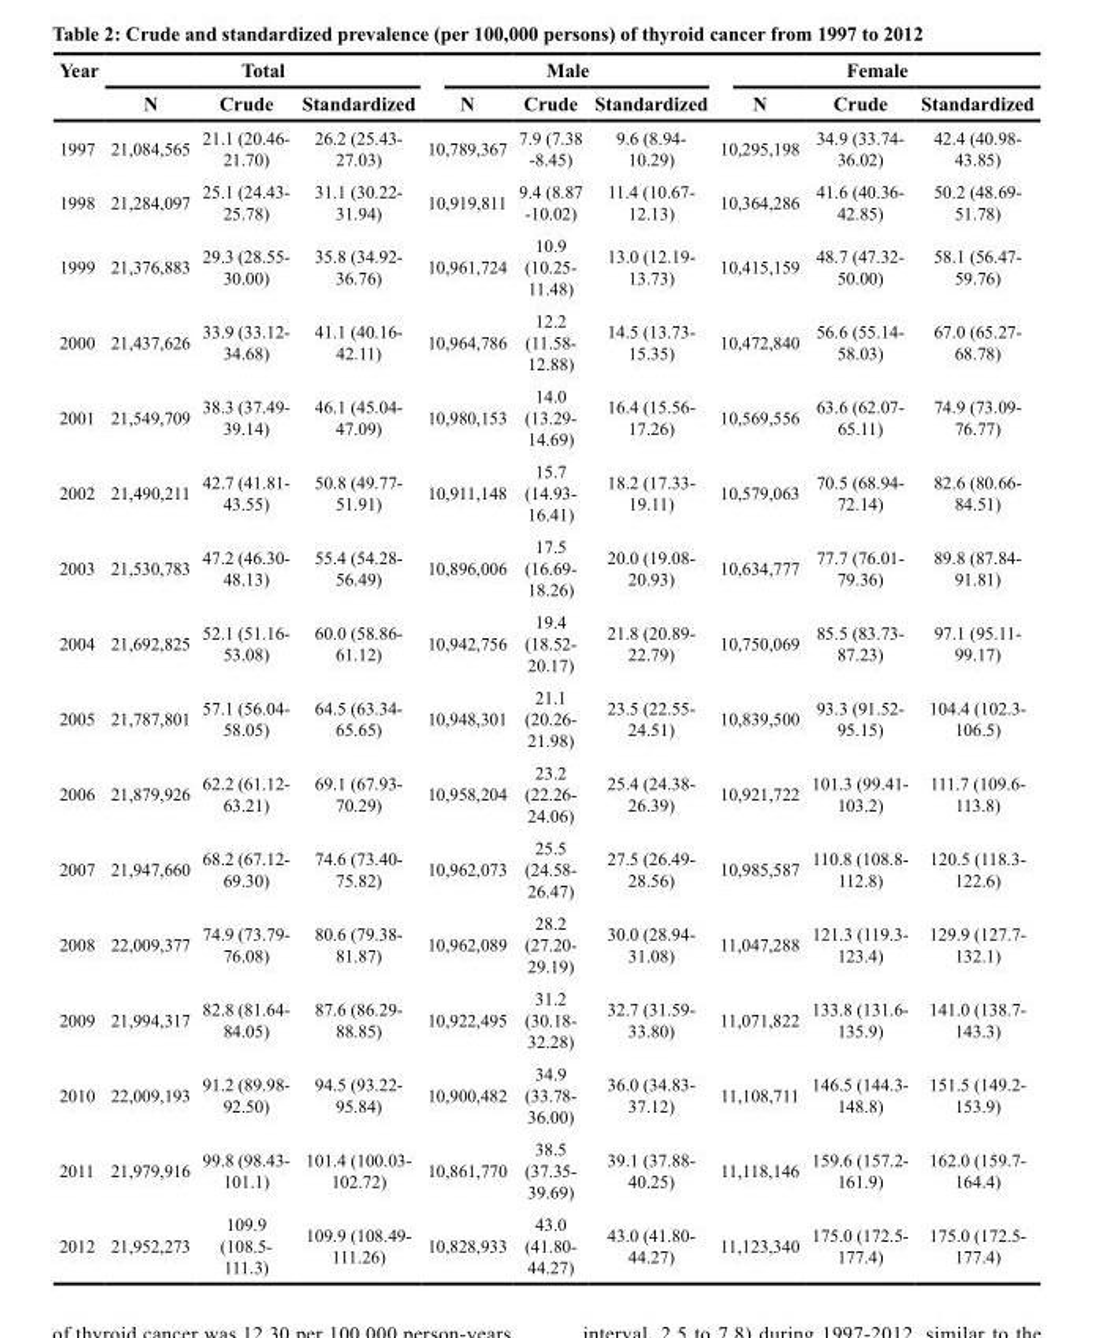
<table><thead><tr><td rowspan="2">Year</td><td colspan="3">Total</td><td colspan="3">Male</td><td colspan="3">Female</td></tr><tr><td>N</td><td>Crude</td><td>Standardized</td><td>N</td><td>Crude</td><td>Standardized</td><td>N</td><td>Crude</td><td>Standardized</td></tr></thead><tbody><tr><td>1997</td><td>21,084,565</td><td>21.1 (20.46- 21.70)</td><td>26.2 (25.43- 27.03)</td><td>10,789,367</td><td>7.9 (7.38 -8.45)</td><td>9.6 (8.94- 10.29)</td><td>10,295,198</td><td>34.9 (33.74- 36.02)</td><td>42.4 (40.98- 43.85)</td></tr><tr><td>1998</td><td>21,284,097</td><td>25.1 (24.43- 25.78)</td><td>31.1 (30.22- 31.94)</td><td>10,919,811</td><td>9.4 (8.87 -10.02)</td><td>11.4 (10.67- 12.13)</td><td>10,364,286</td><td>41.6 (40.36- 42.85)</td><td>50.2 (48.69- 51.78)</td></tr><tr><td>1999</td><td>21,376,883</td><td>29.3 (28.55- 30.00)</td><td>35.8 (34.92- 36.76)</td><td>10,961,724</td><td>10.9 (10.25- 11.48)</td><td>13.0 (12.19- 13.73)</td><td>10,415,159</td><td>48.7 (47.32- 50.00)</td><td>58.1 (56.47- 59.76)</td></tr><tr><td>2000</td><td>21,437,626</td><td>33.9 (33.12- 34.68)</td><td>41.1 (40.16- 42.11)</td><td>10,964,786</td><td>12.2 (11.58- 12.88)</td><td>14.5 (13.73- 15.35)</td><td>10,472,840</td><td>56.6 (55.14- 58.03)</td><td>67.0 (65.27- 68.78)</td></tr><tr><td>2001</td><td>21,549,709</td><td>38.3 (37.49- 39.14)</td><td>46.1 (45.04- 47.09)</td><td>10,980,153</td><td>14.0 (13.29- 14.69)</td><td>16.4 (15.56- 17.26)</td><td>10,569,556</td><td>63.6 (62.07- 65.11)</td><td>74.9 (73.09- 76.77)</td></tr><tr><td>2002</td><td>21,490,211</td><td>42.7 (41.81- 43.55)</td><td>50.8 (49.77- 51.91)</td><td>10,911,148</td><td>15.7 (14.93- 16.41)</td><td>18.2 (17.33- 19.11)</td><td>10,579,063</td><td>70.5 (68.94- 72.14)</td><td>82.6 (80.66- 84.51)</td></tr><tr><td>2003</td><td>21,530,783</td><td>47.2 (46.30- 48.13)</td><td>55.4 (54.28- 56.49)</td><td>10,896,006</td><td>17.5 (16.69- 18.26)</td><td>20.0 (19.08- 20.93)</td><td>10,634,777</td><td>77.7 (76.01- 79.36)</td><td>89.8 (87.84- 91.81)</td></tr><tr><td>2004</td><td>21,692,825</td><td>52.1 (51.16- 53.08)</td><td>60.0 (58.86- 61.12)</td><td>10,942,756</td><td>19.4 (18.52- 20.17)</td><td>21.8 (20.89- 22.79)</td><td>10,750,069</td><td>85.5 (83.73- 87.23)</td><td>97.1 (95.11- 99.17)</td></tr><tr><td>2005</td><td>21,787,801</td><td>57.1 (56.04- 58.05)</td><td>64.5 (63.34- 65.65)</td><td>10,948,301</td><td>21.1 (20.26- 21.98)</td><td>23.5 (22.55- 24.51)</td><td>10,839,500</td><td>93.3 (91.52- 95.15)</td><td>104.4 (102.3- 106.5)</td></tr><tr><td>2006</td><td>21,879,926</td><td>62.2 (61.12- 63.21)</td><td>69.1 (67.93- 70.29)</td><td>10,958,204</td><td>23.2 (22.26- 24.06)</td><td>25.4 (24.38- 26.39)</td><td>10,921,722</td><td>101.3 (99.41- 103.2)</td><td>111.7 (109.6- 113.8)</td></tr><tr><td>2007</td><td>21,947,660</td><td>68.2 (67.12- 69.30)</td><td>74.6 (73.40- 75.82)</td><td>10,962,073</td><td>25.5 (24.58- 26.47)</td><td>27.5 (26.49- 28.56)</td><td>10,985,587</td><td>110.8 (108.8- 112.8)</td><td>120.5 (118.3- 122.6)</td></tr><tr><td>2008</td><td>22,009,377</td><td>74.9 (73.79- 76.08)</td><td>80.6 (79.38- 81.87)</td><td>10,962,089</td><td>28.2 (27.20- 29.19)</td><td>30.0 (28.94- 31.08)</td><td>11,047,288</td><td>121.3 (119.3- 123.4)</td><td>129.9 (127.7- 132.1)</td></tr><tr><td>2009</td><td>21,994,317</td><td>82.8 (81.64- 84.05)</td><td>87.6 (86.29- 88.85)</td><td>10,922,495</td><td>31.2 (30.18- 32.28)</td><td>32.7 (31.59- 33.80)</td><td>11,071,822</td><td>133.8 (131.6- 135.9)</td><td>141.0 (138.7- 143.3)</td></tr><tr><td>2010</td><td>22,009,193</td><td>91.2 (89.98- 92.50)</td><td>94.5 (93.22- 95.84)</td><td>10,900,482</td><td>34.9 (33.78- 36.00)</td><td>36.0 (34.83- 37.12)</td><td>11,108,711</td><td>146.5 (144.3- 148.8)</td><td>151.5 (149.2- 153.9)</td></tr><tr><td>2011</td><td>21,979,916</td><td>99.8 (98.43- 101.1)</td><td>101.4 (100.03- 102.72)</td><td>10,861,770</td><td>38.5 (37.35- 39.69)</td><td>39.1 (37.88- 40.25)</td><td>11,118,146</td><td>159.6 (157.2- 161.9)</td><td>162.0 (159.7- 164.4)</td></tr><tr><td>2012</td><td>21,952,273</td><td>109.9 (108.5- 111.3)</td><td>109.9 (108.49- 111.26)</td><td>10,828,933</td><td>43.0 (41.80- 44.27)</td><td>43.0 (41.80- 44.27)</td><td>11,123,340</td><td>175.0 (172.5- 177.4)</td><td>175.0 (172.5- 177.4)</td></tr></tbody></table>